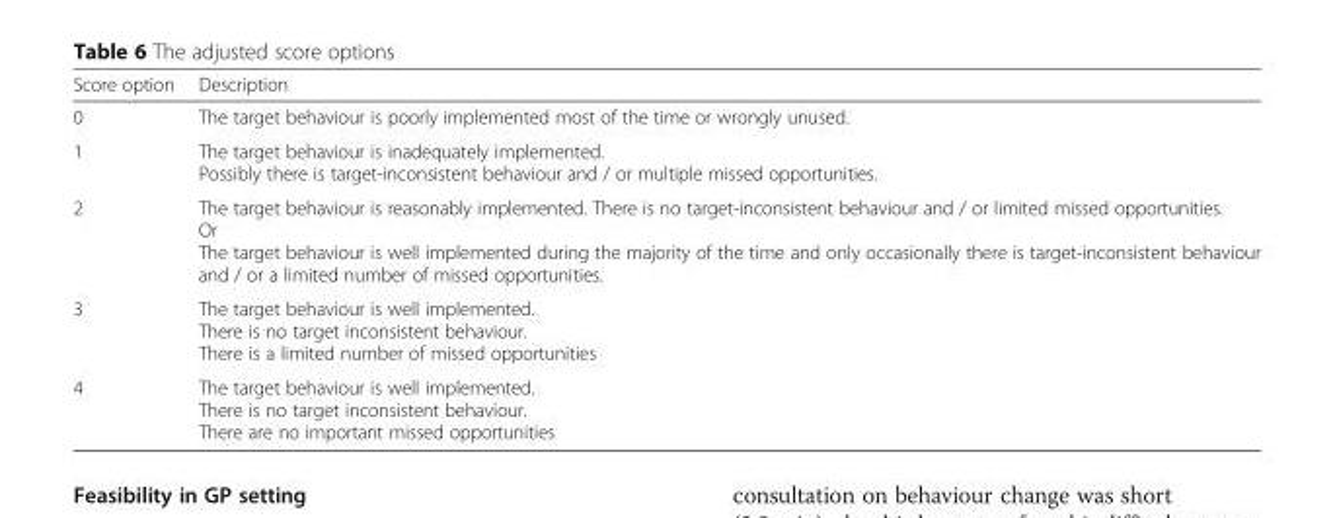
<table><thead><tr><td>Score option</td><td>Description</td></tr></thead><tbody><tr><td>0</td><td>The target behaviour is poorly implemented most of the time or wrongly unused.</td></tr><tr><td>1</td><td>The target behaviour is inadequately implemented. Possibly there is target-inconsistent behaviour and / or multiple missed opportunities.</td></tr><tr><td>2</td><td>The target behaviour is reasonably implemented. There is no target-inconsistent behaviour and / or limited missed opportunities. Or The target behaviour is well implemented during the majority of the time and only occasionally there is target-inconsistent behaviour and / or a limited number of missed opportunities.</td></tr><tr><td>3</td><td>The target behaviour is well implemented. There is no target inconsistent behaviour. There is a limited number of missed opportunities</td></tr><tr><td>4</td><td>The target behaviour is well implemented. There is no target inconsistent behaviour. There are no important missed opportunities</td></tr></tbody></table>